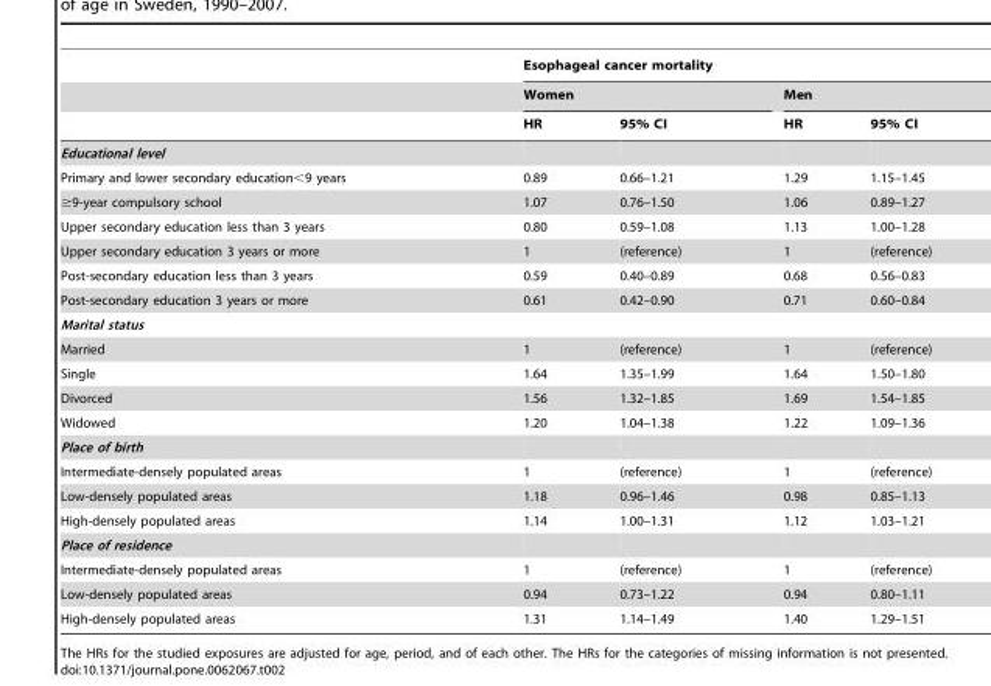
<table><thead><tr><td rowspan="3"></td><td colspan="4">Esophageal cancer mortality</td></tr><tr><td colspan="2">Women</td><td colspan="2">Men</td></tr><tr><td>HR</td><td>95% CI</td><td>HR</td><td>95% CI</td></tr></thead><tbody><tr><td colspan="5">Educational level</td></tr><tr><td>Primary and lower secondary education&lt;9 years</td><td>0.89</td><td>0.66–1.21</td><td>1.29</td><td>1.15–1.45</td></tr><tr><td>≥9-year compulsory school</td><td>1.07</td><td>0.76–1.50</td><td>1.06</td><td>0.89–1.27</td></tr><tr><td>Upper secondary education less than 3 years</td><td>0.80</td><td>0.59–1.08</td><td>1.13</td><td>1.00–1.28</td></tr><tr><td>Upper secondary education 3 years or more</td><td>1</td><td>(reference)</td><td>1</td><td>(reference)</td></tr><tr><td>Post-secondary education less than 3 years</td><td>0.59</td><td>0.40–0.89</td><td>0.68</td><td>0.56–0.83</td></tr><tr><td>Post-secondary education 3 years or more</td><td>0.61</td><td>0.42–0.90</td><td>0.71</td><td>0.60–0.84</td></tr><tr><td colspan="5">Marital status</td></tr><tr><td>Married</td><td>1</td><td>(reference)</td><td>1</td><td>(reference)</td></tr><tr><td>Single</td><td>1.64</td><td>1.35–1.99</td><td>1.64</td><td>1.50–1.80</td></tr><tr><td>Divorced</td><td>1.56</td><td>1.32–1.85</td><td>1.69</td><td>1.54–1.85</td></tr><tr><td>Widowed</td><td>1.20</td><td>1.04–1.38</td><td>1.22</td><td>1.09–1.36</td></tr><tr><td colspan="5">Place of birth</td></tr><tr><td>Intermediate-densely populated areas</td><td>1</td><td>(reference)</td><td>1</td><td>(reference)</td></tr><tr><td>Low-densely populated areas</td><td>1.18</td><td>0.96–1.46</td><td>0.98</td><td>0.85–1.13</td></tr><tr><td>High-densely populated areas</td><td>1.14</td><td>1.00–1.31</td><td>1.12</td><td>1.03–1.21</td></tr><tr><td colspan="5">Place of residence</td></tr><tr><td>Intermediate-densely populated areas</td><td>1</td><td>(reference)</td><td>1</td><td>(reference)</td></tr><tr><td>Low-densely populated areas</td><td>0.94</td><td>0.73–1.22</td><td>0.94</td><td>0.80–1.11</td></tr><tr><td>High-densely populated areas</td><td>1.31</td><td>1.14–1.49</td><td>1.40</td><td>1.29–1.51</td></tr></tbody></table>